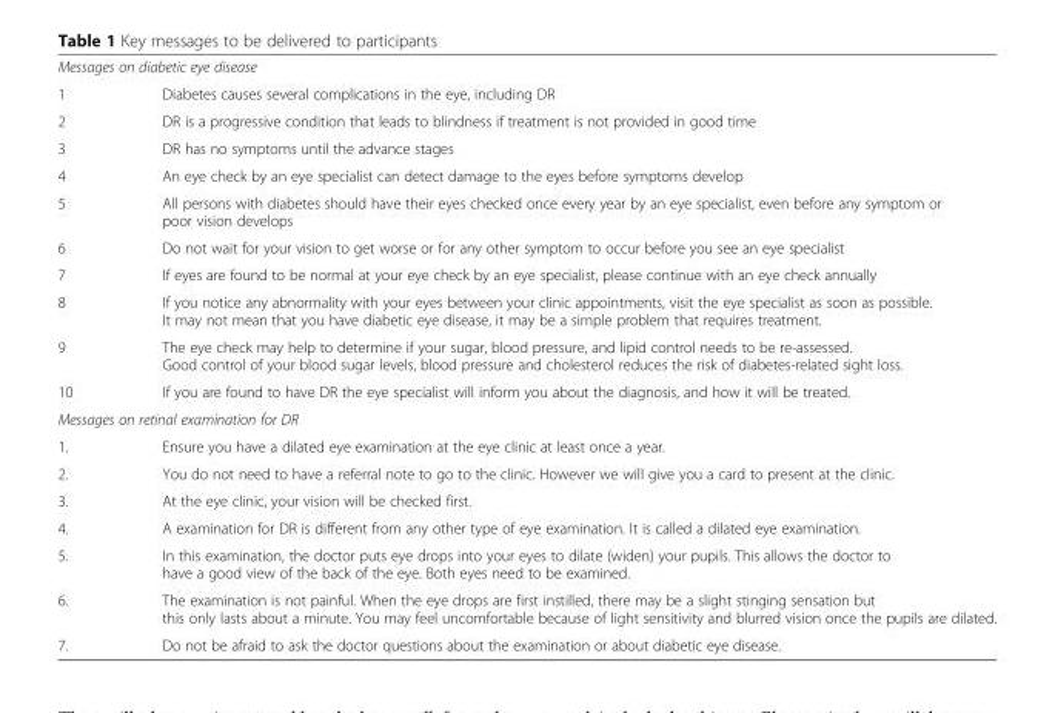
<table><tbody><tr><td colspan="2">Messages on diabetic eye disease</td></tr><tr><td>1</td><td>Diabetes causes several complications in the eye, including DR</td></tr><tr><td>2</td><td>DR is a progressive condition that leads to blindness if treatment is not provided in good time</td></tr><tr><td>3</td><td>DR has no symptoms until the advance stages</td></tr><tr><td>4</td><td>An eye check by an eye specialist can detect damage to the eyes before symptoms develop</td></tr><tr><td>5</td><td>All persons with diabetes should have their eyes checked once every year by an eye specialist, even before any symptom or poor vision develops</td></tr><tr><td>6</td><td>Do not wait for your vision to get worse or for any other symptom to occur before you see an eye specialist</td></tr><tr><td>7</td><td>If eyes are found to be normal at your eye check by an eye specialist, please continue with an eye check annually</td></tr><tr><td>8</td><td>If you notice any abnormality with your eyes between your clinic appointments, visit the eye specialist as soon as possible. It may not mean that you have diabetic eye disease, it may be a simple problem that requires treatment.</td></tr><tr><td>9</td><td>The eye check may help to determine if your sugar, blood pressure, and lipid control needs to be re-assessed. Good control of your blood sugar levels, blood pressure and cholesterol reduces the risk of diabetes-related sight loss.</td></tr><tr><td>10</td><td>If you are found to have DR the eye specialist will inform you about the diagnosis, and how it will be treated.</td></tr><tr><td colspan="2">Messages on retinal examination for DR</td></tr><tr><td>1.</td><td>Ensure you have a dilated eye examination at the eye clinic at least once a year.</td></tr><tr><td>2.</td><td>You do not need to have a referral note to go to the clinic. However we will give you a card to present at the clinic.</td></tr><tr><td>3.</td><td>At the eye clinic, your vision will be checked first.</td></tr><tr><td>4.</td><td>A examination for DR is different from any other type of eye examination. It is called a dilated eye examination.</td></tr><tr><td>5.</td><td>In this examination, the doctor puts eye drops into your eyes to dilate (widen) your pupils. This allows the doctor to have a good view of the back of the eye. Both eyes need to be examined.</td></tr><tr><td>6.</td><td>The examination is not painful. When the eye drops are first instilled, there may be a slight stinging sensation but this only lasts about a minute. You may feel uncomfortable because of light sensitivity and blurred vision once the pupils are dilated.</td></tr><tr><td>7.</td><td>Do not be afraid to ask the doctor questions about the examination or about diabetic eye disease.</td></tr></tbody></table>